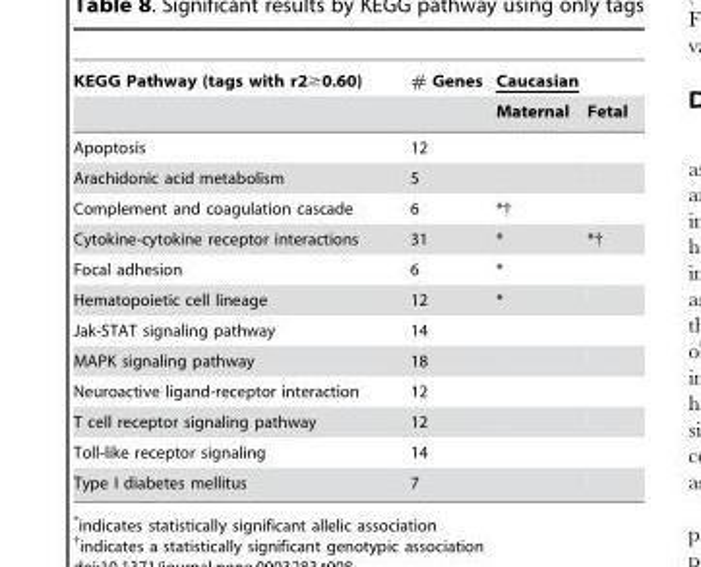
<table><thead><tr><td rowspan="2">KEGG Pathway (tags with r2≥0.60)</td><td rowspan="2"># Genes</td><td colspan="2">Caucasian</td></tr><tr><td>Maternal</td><td>Fetal</td></tr></thead><tbody><tr><td>Apoptosis</td><td>12</td><td></td><td></td></tr><tr><td>Arachidonic acid metabolism</td><td>5</td><td></td><td></td></tr><tr><td>Complement and coagulation cascade</td><td>6</td><td>*†</td><td></td></tr><tr><td>Cytokine-cytokine receptor interactions</td><td>31</td><td>*</td><td>*†</td></tr><tr><td>Focal adhesion</td><td>6</td><td>*</td><td></td></tr><tr><td>Hematopoietic cell lineage</td><td>12</td><td>*</td><td></td></tr><tr><td>Jak-STAT signaling pathway</td><td>14</td><td></td><td></td></tr><tr><td>MAPK signaling pathway</td><td>18</td><td></td><td></td></tr><tr><td>Neuroactive ligand-receptor interaction</td><td>12</td><td></td><td></td></tr><tr><td>T cell receptor signaling pathway</td><td>12</td><td></td><td></td></tr><tr><td>Toll-like receptor signaling</td><td>14</td><td></td><td></td></tr><tr><td>Type I diabetes mellitus</td><td>7</td><td></td><td></td></tr></tbody></table>